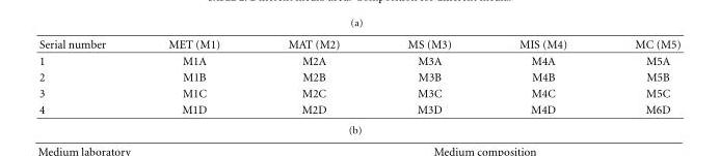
<table><thead><tr><td>Serial number</td><td>MET (M1)</td><td>MAT (M2)</td><td>MS (M3)</td><td>MIS (M4)</td><td>MC (M5)</td></tr></thead><tbody><tr><td>1</td><td>M1A</td><td>M2A</td><td>M3A</td><td>M4A</td><td>M5A</td></tr><tr><td>2</td><td>M1B</td><td>M2B</td><td>M3B</td><td>M4B</td><td>M5B</td></tr><tr><td>3</td><td>M1C</td><td>M2C</td><td>M3C</td><td>M4C</td><td>M5C</td></tr><tr><td>4</td><td>M1D</td><td>M2D</td><td>M3D</td><td>M4D</td><td>M6D</td></tr></tbody></table>